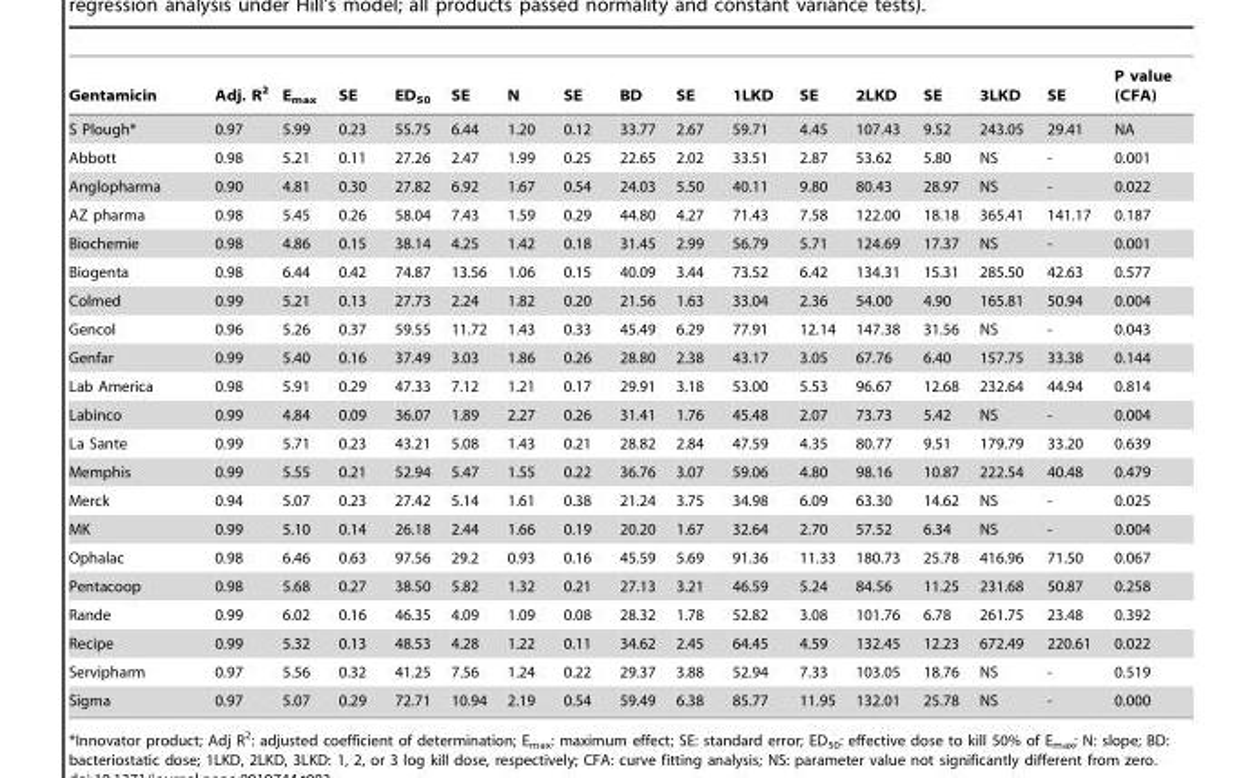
<table><thead><tr><td>Gentamicin</td><td>Adj. R<sup>2</sup></td><td>E<sub>max</sub></td><td>SE</td><td>ED<sub>50</sub></td><td>SE</td><td>N</td><td>SE</td><td>BD</td><td>SE</td><td>1LKD</td><td>SE</td><td>2LKD</td><td>SE</td><td>3LKD</td><td>SE</td><td>P value (CFA)</td></tr></thead><tbody><tr><td>S Plough*</td><td>0.97</td><td>5.99</td><td>0.23</td><td>55.75</td><td>6.44</td><td>1.20</td><td>0.12</td><td>33.77</td><td>2.67</td><td>59.71</td><td>4.45</td><td>107.43</td><td>9.52</td><td>243.05</td><td>29.41</td><td>NA</td></tr><tr><td>Abbott</td><td>0.98</td><td>5.21</td><td>0.11</td><td>27.26</td><td>2.47</td><td>1.99</td><td>0.25</td><td>22.65</td><td>2.02</td><td>33.51</td><td>2.87</td><td>53.62</td><td>5.80</td><td>NS</td><td>-</td><td>0.001</td></tr><tr><td>Anglopharma</td><td>0.90</td><td>4.81</td><td>0.30</td><td>27.82</td><td>6.92</td><td>1.67</td><td>0.54</td><td>24.03</td><td>5.50</td><td>40.11</td><td>9.80</td><td>80.43</td><td>28.97</td><td>NS</td><td>-</td><td>0.022</td></tr><tr><td>AZ pharma</td><td>0.98</td><td>5.45</td><td>0.26</td><td>58.04</td><td>7.43</td><td>1.59</td><td>0.29</td><td>44.80</td><td>4.27</td><td>71.43</td><td>7.58</td><td>122.00</td><td>18.18</td><td>365.41</td><td>141.17</td><td>0.187</td></tr><tr><td>Biochemie</td><td>0.98</td><td>4.86</td><td>0.15</td><td>38.14</td><td>4.25</td><td>1.42</td><td>0.18</td><td>31.45</td><td>2.99</td><td>56.79</td><td>5.71</td><td>124.69</td><td>17.37</td><td>NS</td><td>-</td><td>0.001</td></tr><tr><td>Biogenta</td><td>0.98</td><td>6.44</td><td>0.42</td><td>74.87</td><td>13.56</td><td>1.06</td><td>0.15</td><td>40.09</td><td>3.44</td><td>73.52</td><td>6.42</td><td>134.31</td><td>15.31</td><td>285.50</td><td>42.63</td><td>0.577</td></tr><tr><td>Colmed</td><td>0.99</td><td>5.21</td><td>0.13</td><td>27.73</td><td>2.24</td><td>1.82</td><td>0.20</td><td>21.56</td><td>1.63</td><td>33.04</td><td>2.36</td><td>54.00</td><td>4.90</td><td>165.81</td><td>50.94</td><td>0.004</td></tr><tr><td>Gencol</td><td>0.96</td><td>5.26</td><td>0.37</td><td>59.55</td><td>11.72</td><td>1.43</td><td>0.33</td><td>45.49</td><td>6.29</td><td>77.91</td><td>12.14</td><td>147.38</td><td>31.56</td><td>NS</td><td>-</td><td>0.043</td></tr><tr><td>Genfar</td><td>0.99</td><td>5.40</td><td>0.16</td><td>37.49</td><td>3.03</td><td>1.86</td><td>0.26</td><td>28.80</td><td>2.38</td><td>43.17</td><td>3.05</td><td>67.76</td><td>6.40</td><td>157.75</td><td>33.38</td><td>0.144</td></tr><tr><td>Lab America</td><td>0.98</td><td>5.91</td><td>0.29</td><td>47.33</td><td>7.12</td><td>1.21</td><td>0.17</td><td>29.91</td><td>3.18</td><td>53.00</td><td>5.53</td><td>96.67</td><td>12.68</td><td>232.64</td><td>44.94</td><td>0.814</td></tr><tr><td>Labinco</td><td>0.99</td><td>4.84</td><td>0.09</td><td>36.07</td><td>1.89</td><td>2.27</td><td>0.26</td><td>31.41</td><td>1.76</td><td>45.48</td><td>2.07</td><td>73.73</td><td>5.42</td><td>NS</td><td>-</td><td>0.004</td></tr><tr><td>La Sante</td><td>0.99</td><td>5.71</td><td>0.23</td><td>43.21</td><td>5.08</td><td>1.43</td><td>0.21</td><td>28.82</td><td>2.84</td><td>47.59</td><td>4.35</td><td>80.77</td><td>9.51</td><td>179.79</td><td>33.20</td><td>0.639</td></tr><tr><td>Memphis</td><td>0.99</td><td>5.55</td><td>0.21</td><td>52.94</td><td>5.47</td><td>1.55</td><td>0.22</td><td>36.76</td><td>3.07</td><td>59.06</td><td>4.80</td><td>98.16</td><td>10.87</td><td>222.54</td><td>40.48</td><td>0.479</td></tr><tr><td>Merck</td><td>0.94</td><td>5.07</td><td>0.23</td><td>27.42</td><td>5.14</td><td>1.61</td><td>0.38</td><td>21.24</td><td>3.75</td><td>34.98</td><td>6.09</td><td>63.30</td><td>14.62</td><td>NS</td><td>-</td><td>0.025</td></tr><tr><td>MK</td><td>0.99</td><td>5.10</td><td>0.14</td><td>26.18</td><td>2.44</td><td>1.66</td><td>0.19</td><td>20.20</td><td>1.67</td><td>32.64</td><td>2.70</td><td>57.52</td><td>6.34</td><td>NS</td><td>-</td><td>0.004</td></tr><tr><td>Ophalac</td><td>0.98</td><td>6.46</td><td>0.63</td><td>97.56</td><td>29.2</td><td>0.93</td><td>0.16</td><td>45.59</td><td>5.69</td><td>91.36</td><td>11.33</td><td>180.73</td><td>25.78</td><td>416.96</td><td>71.50</td><td>0.067</td></tr><tr><td>Pentacoop</td><td>0.98</td><td>5.68</td><td>0.27</td><td>38.50</td><td>5.82</td><td>1.32</td><td>0.21</td><td>27.13</td><td>3.21</td><td>46.59</td><td>5.24</td><td>84.56</td><td>11.25</td><td>231.68</td><td>50.87</td><td>0.258</td></tr><tr><td>Rande</td><td>0.99</td><td>6.02</td><td>0.16</td><td>46.35</td><td>4.09</td><td>1.09</td><td>0.08</td><td>28.32</td><td>1.78</td><td>52.82</td><td>3.08</td><td>101.76</td><td>6.78</td><td>261.75</td><td>23.48</td><td>0.392</td></tr><tr><td>Recipe</td><td>0.99</td><td>5.32</td><td>0.13</td><td>48.53</td><td>4.28</td><td>1.22</td><td>0.11</td><td>34.62</td><td>2.45</td><td>64.45</td><td>4.59</td><td>132.45</td><td>12.23</td><td>672.49</td><td>220.61</td><td>0.022</td></tr><tr><td>Servipharm</td><td>0.97</td><td>5.56</td><td>0.32</td><td>41.25</td><td>7.56</td><td>1.24</td><td>0.22</td><td>29.37</td><td>3.88</td><td>52.94</td><td>7.33</td><td>103.05</td><td>18.76</td><td>NS</td><td>-</td><td>0.519</td></tr><tr><td>Sigma</td><td>0.97</td><td>5.07</td><td>0.29</td><td>72.71</td><td>10.94</td><td>2.19</td><td>0.54</td><td>59.49</td><td>6.38</td><td>85.77</td><td>11.95</td><td>132.01</td><td>25.78</td><td>NS</td><td>-</td><td>0.000</td></tr></tbody></table>